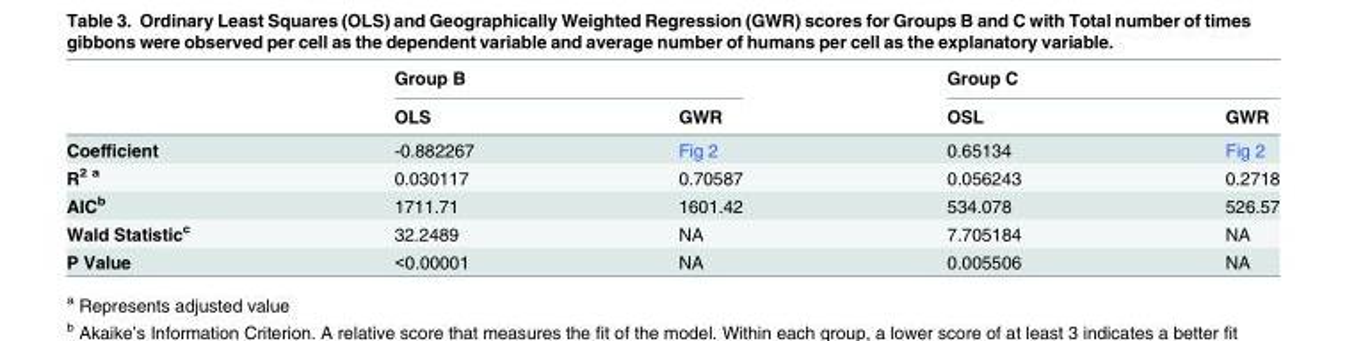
<table><thead><tr><td rowspan="2"></td><td colspan="2">Group B</td><td colspan="2">Group C</td></tr><tr><td>OLS</td><td>GWR</td><td>OSL</td><td>GWR</td></tr></thead><tbody><tr><td>Coefficient</td><td>-0.882267</td><td>Fig 2</td><td>0.65134</td><td>Fig 2</td></tr><tr><td>R<sup>2 a</sup></td><td>0.030117</td><td>0.70587</td><td>0.056243</td><td>0.2718</td></tr><tr><td>AIC<sup>b</sup></td><td>1711.71</td><td>1601.42</td><td>534.078</td><td>526.57</td></tr><tr><td>Wald Statistic<sup>c</sup></td><td>32.2489</td><td>NA</td><td>7.705184</td><td>NA</td></tr><tr><td>P Value</td><td>&lt;0.00001</td><td>NA</td><td>0.005506</td><td>NA</td></tr></tbody></table>